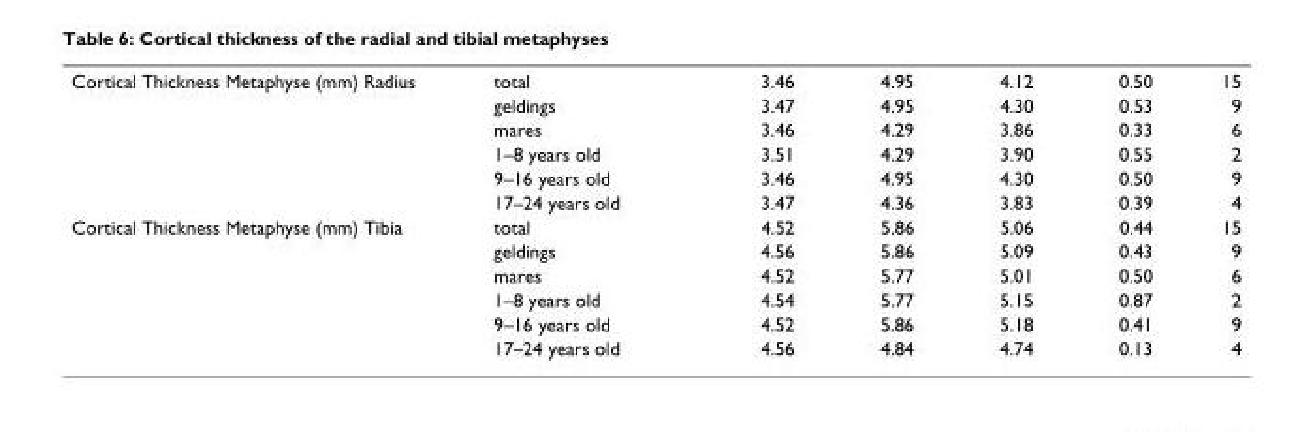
<table><tbody><tr><td rowspan="6">Cortical Thickness Metaphyse (mm) Radius</td><td>total</td><td>3.46</td><td>4.95</td><td>4.12</td><td>0.50</td><td>15</td></tr><tr><td>geldings</td><td>3.47</td><td>4.95</td><td>4.30</td><td>0.53</td><td>9</td></tr><tr><td>mares</td><td>3.46</td><td>4.29</td><td>3.86</td><td>0.33</td><td>6</td></tr><tr><td>1–8 years old</td><td>3.51</td><td>4.29</td><td>3.90</td><td>0.55</td><td>2</td></tr><tr><td>9–16 years old</td><td>3.46</td><td>4.95</td><td>4.30</td><td>0.50</td><td>9</td></tr><tr><td>17–24 years old</td><td>3.47</td><td>4.36</td><td>3.83</td><td>0.39</td><td>4</td></tr><tr><td rowspan="6">Cortical Thickness Metaphyse (mm) Tibia</td><td>total</td><td>4.52</td><td>5.86</td><td>5.06</td><td>0.44</td><td>15</td></tr><tr><td>geldings</td><td>4.56</td><td>5.86</td><td>5.09</td><td>0.43</td><td>9</td></tr><tr><td>mares</td><td>4.52</td><td>5.77</td><td>5.01</td><td>0.50</td><td>6</td></tr><tr><td>1–8 years old</td><td>4.54</td><td>5.77</td><td>5.15</td><td>0.87</td><td>2</td></tr><tr><td>9–16 years old</td><td>4.52</td><td>5.86</td><td>5.18</td><td>0.41</td><td>9</td></tr><tr><td>17–24 years old</td><td>4.56</td><td>4.84</td><td>4.74</td><td>0.13</td><td>4</td></tr></tbody></table>